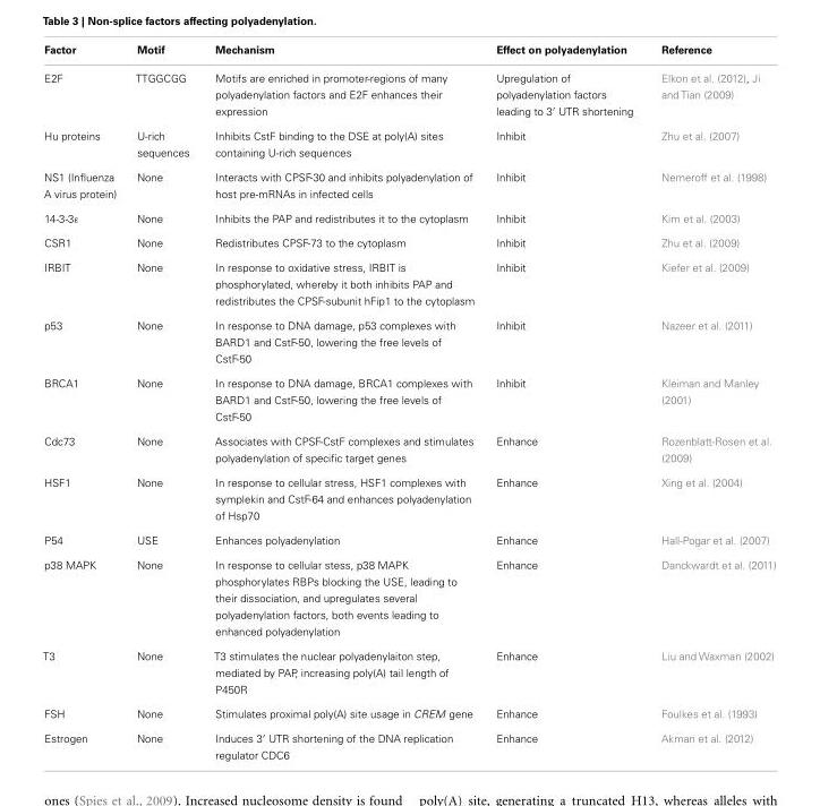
<table><thead><tr><td>Factor</td><td>Motif</td><td>Mechanism</td><td>Effect on polyadenylation</td><td>Reference</td></tr></thead><tbody><tr><td>E2F</td><td>TTGGCGG</td><td>Motifs are enriched in promoter-regions of many polyadenylation factors and E2F enhances their expression</td><td>Upregulation of polyadenylation factors leading to 3′ UTR shortening</td><td>Elkon et al. (2012), Ji and Tian (2009)</td></tr><tr><td>Hu proteins</td><td>U-rich sequences</td><td>Inhibits CstF binding to the DSE at poly(A) sites containing U-rich sequences</td><td>Inhibit</td><td>Zhu et al. (2007)</td></tr><tr><td>NS1 (Influenza A virus protein)</td><td>None</td><td>Interacts with CPSF-30 and inhibits polyadenylation of host pre-mRNAs in infected cells</td><td>Inhibit</td><td>Nemeroff et al. (1998)</td></tr><tr><td>14-3-3ε</td><td>None</td><td>Inhibits the PAP and redistributes it to the cytoplasm</td><td>Inhibit</td><td>Kim et al. (2003)</td></tr><tr><td>CSR1</td><td>None</td><td>Redistributes CPSF-73 to the cytoplasm</td><td>Inhibit</td><td>Zhu et al. (2009)</td></tr><tr><td>IRBIT</td><td>None</td><td>In response to oxidative stress, IRBIT is phosphorylated, whereby it both inhibits PAP and redistributes the CPSF-subunit hFip1 to the cytoplasm</td><td>Inhibit</td><td>Kiefer et al. (2009)</td></tr><tr><td>p53</td><td>None</td><td>In response to DNA damage, p53 complexes with BARD1 and CstF-50, lowering the free levels of CstF-50</td><td>Inhibit</td><td>Nazeer et al. (2011)</td></tr><tr><td>BRCA1</td><td>None</td><td>In response to DNA damage, BRCA1 complexes with BARD1 and CstF-50, lowering the free levels of CstF-50</td><td>Inhibit</td><td>Kleiman and Manley (2001)</td></tr><tr><td>Cdc73</td><td>None</td><td>Associates with CPSF-CstF complexes and stimulates polyadenylation of specific target genes</td><td>Enhance</td><td>Rozenblatt-Rosen et al. (2009)</td></tr><tr><td>HSF1</td><td>None</td><td>In response to cellular stress, HSF1 complexes with symplekin and CstF-64 and enhances polyadenylation of Hsp70</td><td>Enhance</td><td>Xing et al. (2004)</td></tr><tr><td>P54</td><td>USE</td><td>Enhances polyadenylation</td><td>Enhance</td><td>Hall-Pogar et al. (2007)</td></tr><tr><td>p38 MAPK</td><td>None</td><td>In response to cellular stess, p38 MAPK phosphorylates RBPs blocking the USE, leading to their dissociation, and upregulates several polyadenylation factors, both events leading to enhanced polyadenylation</td><td>Enhance</td><td>Danckwardt et al. (2011)</td></tr><tr><td>T3</td><td>None</td><td>T3 stimulates the nuclear polyadenylaiton step, mediated by PAP, increasing poly(A) tail length of P450R</td><td>Enhance</td><td>Liu and Waxman (2002)</td></tr><tr><td>FSH</td><td>None</td><td>Stimulates proximal poly(A) site usage in CREM gene</td><td>Enhance</td><td>Foulkes et al. (1993)</td></tr><tr><td>Estrogen</td><td>None</td><td>Induces 3′ UTR shortening of the DNA replication regulator CDC6</td><td>Enhance</td><td>Akman et al. (2012)</td></tr></tbody></table>